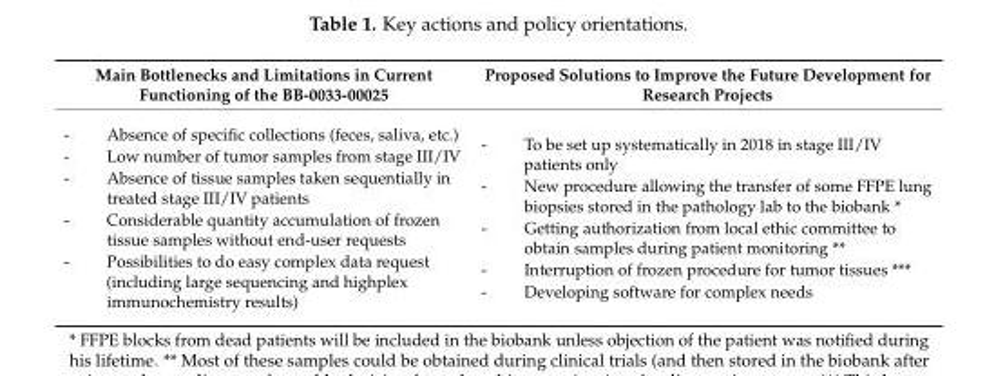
<table><thead><tr><td>Main Bottlenecks and Limitations in Current Functioning of the BB-0033-00025</td><td>Proposed Solutions to Improve the Future Development for Research Projects</td></tr></thead><tbody><tr><td>- Absence of specific collections (feces, saliva, etc.) - Low number of tumor samples from stage III/IV - Absence of tissue samples taken sequentially in treated stage III/IV patients - Considerable quantity accumulation of frozen tissue samples without end-user requests - Possibilities to do easy complex data request (including large sequencing and highplex immunochemistry results)</td><td>- To be set up systematically in 2018 in stage III/IV patients only - New procedure allowing the transfer of some FFPE lung biopsies stored in the pathology lab to the biobank * - Getting authorization from local ethic committee to obtain samples during patient monitoring ** - Interruption of frozen procedure for tumor tissues *** - Developing software for complex needs</td></tr></tbody></table>